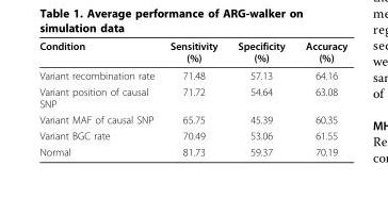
<table><thead><tr><td>Condition</td><td>Sensitivity (%)</td><td>Specificity (%)</td><td>Accuracy (%)</td></tr></thead><tbody><tr><td>Variant recombination rate</td><td>71.48</td><td>57.13</td><td>64.16</td></tr><tr><td>Variant position of causal SNP</td><td>71.72</td><td>54.64</td><td>63.08</td></tr><tr><td>Variant MAF of causal SNP</td><td>65.75</td><td>45.39</td><td>60.35</td></tr><tr><td>Variant BGC rate</td><td>70.49</td><td>53.06</td><td>61.55</td></tr><tr><td>Normal</td><td>81.73</td><td>59.37</td><td>70.19</td></tr></tbody></table>